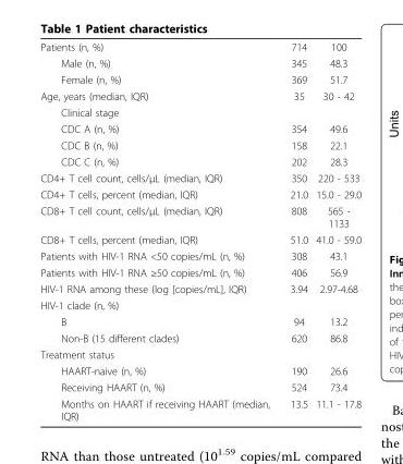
<table><tbody><tr><td>Patients (n, %)</td><td>714</td><td>100</td></tr><tr><td>Male (n, %)</td><td>345</td><td>48.3</td></tr><tr><td>Female (n, %)</td><td>369</td><td>51.7</td></tr><tr><td>Age, years (median, IQR)</td><td>35</td><td>30 - 42</td></tr><tr><td colspan="3">Clinical stage</td></tr><tr><td>CDC A (n, %)</td><td>354</td><td>49.6</td></tr><tr><td>CDC B (n, %)</td><td>158</td><td>22.1</td></tr><tr><td>CDC C (n, %)</td><td>202</td><td>28.3</td></tr><tr><td>CD4+ T cell count, cells/μL (median, IQR)</td><td>350</td><td>220 - 533</td></tr><tr><td>CD4+ T cells, percent (median, IQR)</td><td>21.0</td><td>15.0 - 29.0</td></tr><tr><td>CD8+ T cell count, cells/μL (median, IQR)</td><td>808</td><td>565 - 1133</td></tr><tr><td>CD8+ T cells, percent (median, IQR)</td><td>51.0</td><td>41.0 - 59.0</td></tr><tr><td>Patients with HIV-1 RNA &lt;50 copies/mL (n, %)</td><td>308</td><td>43.1</td></tr><tr><td>Patients with HIV-1 RNA ≥50 copies/mL (n, %)</td><td>406</td><td>56.9</td></tr><tr><td>HIV-1 RNA among these (log [copies/mL], IQR)</td><td>3.94</td><td>2.97-4.68</td></tr><tr><td colspan="3">HIV-1 clade (n, %)</td></tr><tr><td>B</td><td>94</td><td>13.2</td></tr><tr><td>Non-B (15 different clades)</td><td>620</td><td>86.8</td></tr><tr><td colspan="3">Treatment status</td></tr><tr><td>HAART-naive (n, %)</td><td>190</td><td>26.6</td></tr><tr><td>Receiving HAART (n, %)</td><td>524</td><td>73.4</td></tr><tr><td>Months on HAART if receiving HAART (median, IQR)</td><td>13.5</td><td>11.1 - 17.8</td></tr></tbody></table>